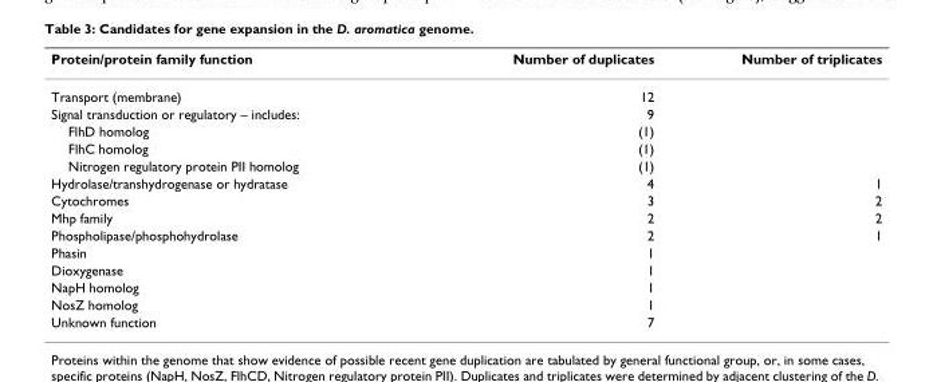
<table><thead><tr><td>Protein/protein family function</td><td>Number of duplicates</td><td>Number of triplicates</td></tr></thead><tbody><tr><td>Transport (membrane)</td><td>12</td><td></td></tr><tr><td>Signal transduction or regulatory – includes:</td><td>9</td><td></td></tr><tr><td>FlhD homolog</td><td>(1)</td><td></td></tr><tr><td>FlhC homolog</td><td>(1)</td><td></td></tr><tr><td>Nitrogen regulatory protein PII homolog</td><td>(1)</td><td></td></tr><tr><td>Hydrolase/transhydrogenase or hydratase</td><td>4</td><td>1</td></tr><tr><td>Cytochromes</td><td>3</td><td>2</td></tr><tr><td>Mhp family</td><td>2</td><td>2</td></tr><tr><td>Phospholipase/phosphohydrolase</td><td>2</td><td>1</td></tr><tr><td>Phasin</td><td>1</td><td></td></tr><tr><td>Dioxygenase</td><td>1</td><td></td></tr><tr><td>NapH homolog</td><td>1</td><td></td></tr><tr><td>NosZ homolog</td><td>1</td><td></td></tr><tr><td>Unknown function</td><td>7</td><td></td></tr></tbody></table>